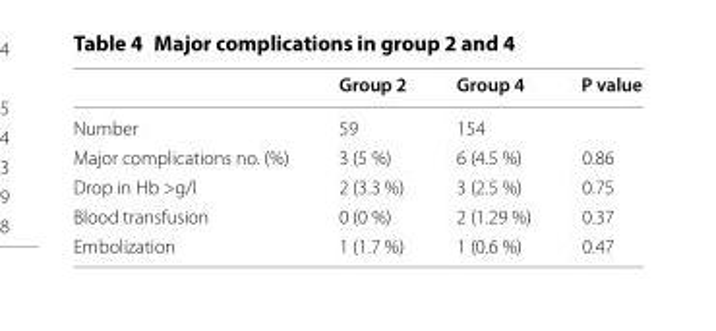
<table><thead><tr><td></td><td>Group 2</td><td>Group 4</td><td>P value</td></tr></thead><tbody><tr><td>Number</td><td>59</td><td>154</td><td></td></tr><tr><td>Major complications no. (%)</td><td>3 (5 %)</td><td>6 (4.5 %)</td><td>0.86</td></tr><tr><td>Drop in Hb &gt;g/l</td><td>2 (3.3 %)</td><td>3 (2.5 %)</td><td>0.75</td></tr><tr><td>Blood transfusion</td><td>0 (0 %)</td><td>2 (1.29 %)</td><td>0.37</td></tr><tr><td>Embolization</td><td>1 (1.7 %)</td><td>1 (0.6 %)</td><td>0.47</td></tr></tbody></table>